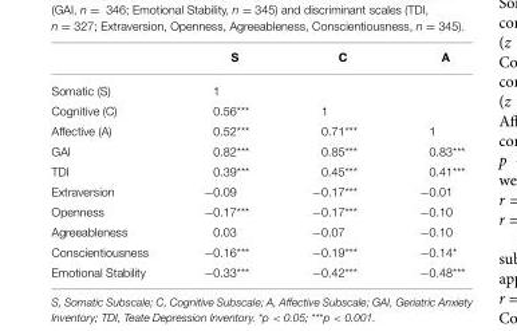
<table><thead><tr><td></td><td>S</td><td>C</td><td>A</td></tr></thead><tbody><tr><td>Somatic (S)</td><td>1</td><td></td><td></td></tr><tr><td>Cognitive (C)</td><td>0.56***</td><td>1</td><td></td></tr><tr><td>Affective (A)</td><td>0.52***</td><td>0.71***</td><td>1</td></tr><tr><td>GAI</td><td>0.82***</td><td>0.85***</td><td>0.83***</td></tr><tr><td>TDI</td><td>0.39***</td><td>0.45***</td><td>0.41***</td></tr><tr><td>Extraversion</td><td>−0.09</td><td>−0.17***</td><td>−0.01</td></tr><tr><td>Openness</td><td>−0.17***</td><td>−0.17***</td><td>−0.10</td></tr><tr><td>Agreeableness</td><td>0.03</td><td>−0.07</td><td>−0.10</td></tr><tr><td>Conscientiousness</td><td>−0.16***</td><td>−0.19***</td><td>−0.14*</td></tr><tr><td>Emotional Stability</td><td>−0.33***</td><td>−0.42***</td><td>−0.48***</td></tr></tbody></table>